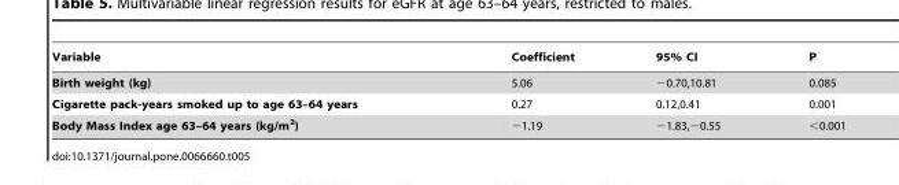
<table><thead><tr><td>Variable</td><td>Coefficient</td><td>95% CI</td><td>P</td></tr></thead><tbody><tr><td>Birth weight (kg)</td><td>5.06</td><td>−0.70,10.81</td><td>0.085</td></tr><tr><td>Cigarette pack-years smoked up to age 63–64 years</td><td>0.27</td><td>0.12,0.41</td><td>0.001</td></tr><tr><td>Body Mass Index age 63–64 years (kg/m<sup>2</sup>)</td><td>−1.19</td><td>−1.83,−0.55</td><td>&lt;0.001</td></tr></tbody></table>